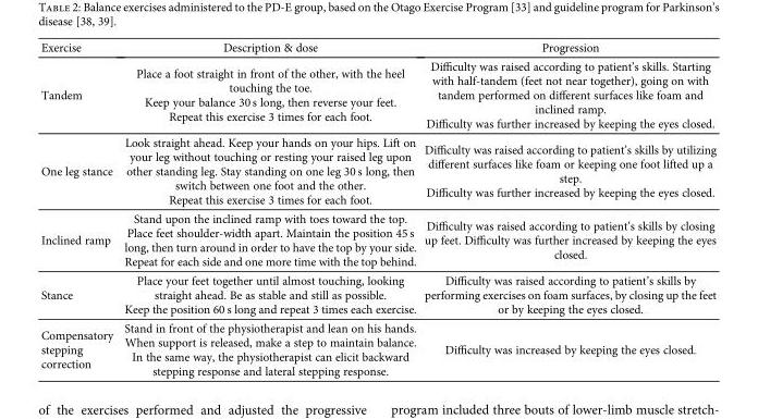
<table><thead><tr><td>Exercise</td><td>Description &amp; dose</td><td>Progression</td></tr></thead><tbody><tr><td>Tandem</td><td>Place a foot straight in front of the other, with the heel touching the toe. Keep your balance 30 s long, then reverse your feet. Repeat this exercise 3 times for each foot.</td><td>Difficulty was raised according to patient’s skills. Starting with half-tandem (feet not near together), going on with tandem performed on different surfaces like foam and inclined ramp. Difficulty was further increased by keeping the eyes closed.</td></tr><tr><td>One leg stance</td><td>Look straight ahead. Keep your hands on your hips. Lift on your leg without touching or resting your raised leg upon other standing leg. Stay standing on one leg 30 s long, then switch between one foot and the other. Repeat this exercise 3 times for each foot.</td><td>Difficulty was raised according to patient’s skills by utilizing different surfaces like foam or keeping one foot lifted up a step. Difficulty was further increased by keeping the eyes closed.</td></tr><tr><td>Inclined ramp</td><td>Stand upon the inclined ramp with toes toward the top. Place feet shoulder-width apart. Maintain the position 45 s long, then turn around in order to have the top by your side. Repeat for each side and one more time with the top behind.</td><td>Difficulty was raised according to patient’s skills by closing up feet. Difficulty was further increased by keeping the eyes closed.</td></tr><tr><td>Stance</td><td>Place your feet together until almost touching, looking straight ahead. Be as stable and still as possible. Keep the position 60 s long and repeat 3 times each exercise.</td><td>Difficulty was raised according to patient’s skills by performing exercises on foam surfaces, by closing up the feet or by keeping the eyes closed.</td></tr><tr><td>Compensatory stepping correction</td><td>Stand in front of the physiotherapist and lean on his hands. When support is released, make a step to maintain balance. In the same way, the physiotherapist can elicit backward stepping response and lateral stepping response.</td><td>Difficulty was increased by keeping the eyes closed.</td></tr></tbody></table>